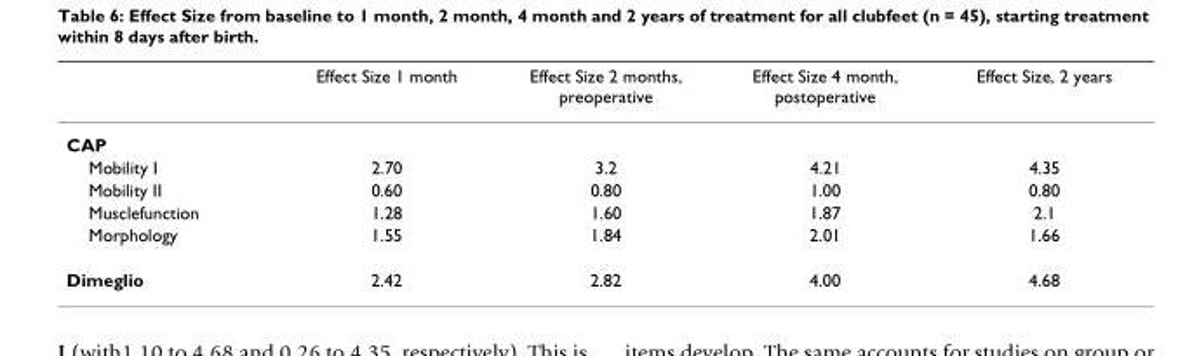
<table><thead><tr><td></td><td>Effect Size 1 month</td><td>Effect Size 2 months, preoperative</td><td>Effect Size 4 month, postoperative</td><td>Effect Size, 2 years</td></tr></thead><tbody><tr><td colspan="5">CAP</td></tr><tr><td>Mobility I</td><td>2.70</td><td>3.2</td><td>4.21</td><td>4.35</td></tr><tr><td>Mobility II</td><td>0.60</td><td>0.80</td><td>1.00</td><td>0.80</td></tr><tr><td>Musclefunction</td><td>1.28</td><td>1.60</td><td>1.87</td><td>2.1</td></tr><tr><td>Morphology</td><td>1.55</td><td>1.84</td><td>2.01</td><td>1.66</td></tr><tr><td>Dimeglio</td><td>2.42</td><td>2.82</td><td>4.00</td><td>4.68</td></tr></tbody></table>